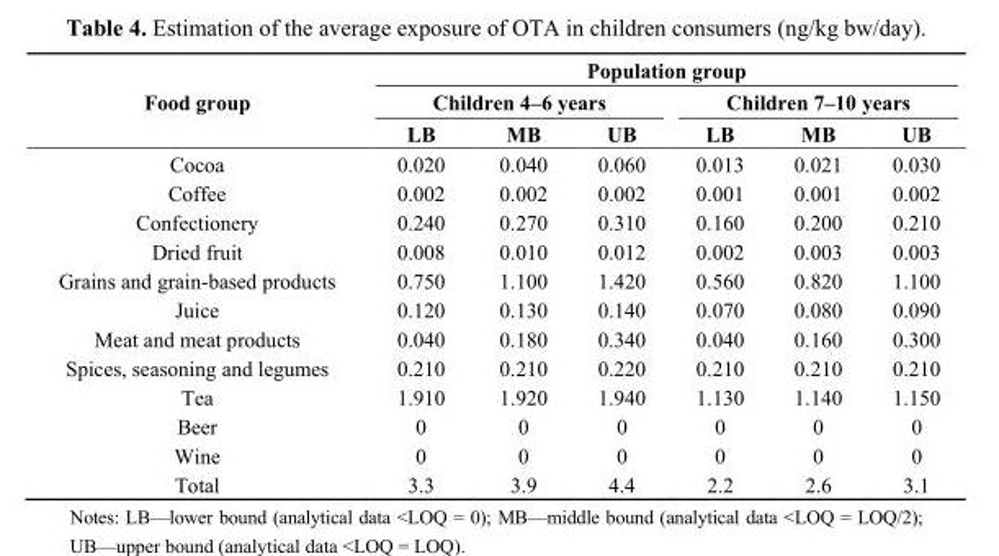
<table><thead><tr><td rowspan="3">Food group</td><td colspan="6">Population group</td></tr><tr><td colspan="3">Children 4–6 years</td><td colspan="3">Children 7–10 years</td></tr><tr><td>LB</td><td>MB</td><td>UB</td><td>LB</td><td>MB</td><td>UB</td></tr></thead><tbody><tr><td>Cocoa</td><td>0.020</td><td>0.040</td><td>0.060</td><td>0.013</td><td>0.021</td><td>0.030</td></tr><tr><td>Coffee</td><td>0.002</td><td>0.002</td><td>0.002</td><td>0.001</td><td>0.001</td><td>0.002</td></tr><tr><td>Confectionery</td><td>0.240</td><td>0.270</td><td>0.310</td><td>0.160</td><td>0.200</td><td>0.210</td></tr><tr><td>Dried fruit</td><td>0.008</td><td>0.010</td><td>0.012</td><td>0.002</td><td>0.003</td><td>0.003</td></tr><tr><td>Grains and grain-based products</td><td>0.750</td><td>1.100</td><td>1.420</td><td>0.560</td><td>0.820</td><td>1.100</td></tr><tr><td>Juice</td><td>0.120</td><td>0.130</td><td>0.140</td><td>0.070</td><td>0.080</td><td>0.090</td></tr><tr><td>Meat and meat products</td><td>0.040</td><td>0.180</td><td>0.340</td><td>0.040</td><td>0.160</td><td>0.300</td></tr><tr><td>Spices, seasoning and legumes</td><td>0.210</td><td>0.210</td><td>0.220</td><td>0.210</td><td>0.210</td><td>0.210</td></tr><tr><td>Tea</td><td>1.910</td><td>1.920</td><td>1.940</td><td>1.130</td><td>1.140</td><td>1.150</td></tr><tr><td>Beer</td><td>0</td><td>0</td><td>0</td><td>0</td><td>0</td><td>0</td></tr><tr><td>Wine</td><td>0</td><td>0</td><td>0</td><td>0</td><td>0</td><td>0</td></tr><tr><td>Total</td><td>3.3</td><td>3.9</td><td>4.4</td><td>2.2</td><td>2.6</td><td>3.1</td></tr></tbody></table>